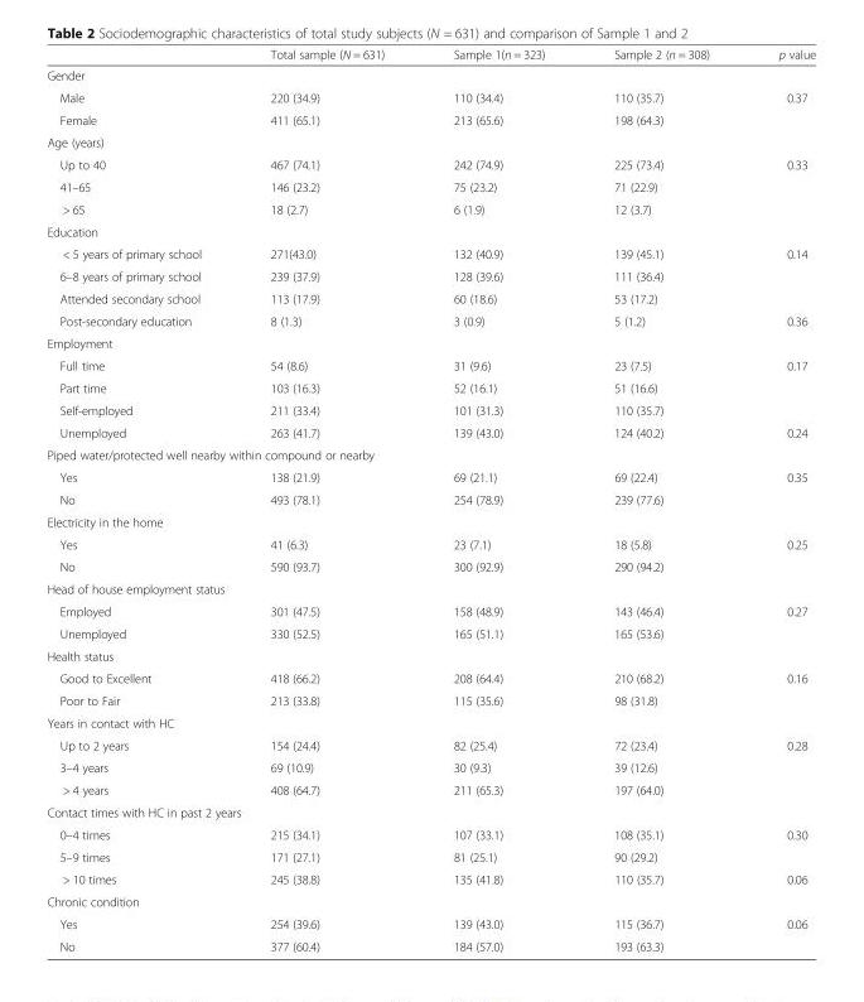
<table><thead><tr><td></td><td>Total sample (N = 631)</td><td>Sample 1(n = 323)</td><td>Sample 2 (n = 308)</td><td>p value</td></tr></thead><tbody><tr><td colspan="5">Gender</td></tr><tr><td>Male</td><td>220 (34.9)</td><td>110 (34.4)</td><td>110 (35.7)</td><td>0.37</td></tr><tr><td>Female</td><td>411 (65.1)</td><td>213 (65.6)</td><td>198 (64.3)</td><td></td></tr><tr><td colspan="5">Age (years)</td></tr><tr><td>Up to 40</td><td>467 (74.1)</td><td>242 (74.9)</td><td>225 (73.4)</td><td>0.33</td></tr><tr><td>41–65</td><td>146 (23.2)</td><td>75 (23.2)</td><td>71 (22.9)</td><td></td></tr><tr><td>&gt; 65</td><td>18 (2.7)</td><td>6 (1.9)</td><td>12 (3.7)</td><td></td></tr><tr><td colspan="5">Education</td></tr><tr><td>&lt; 5 years of primary school</td><td>271(43.0)</td><td>132 (40.9)</td><td>139 (45.1)</td><td>0.14</td></tr><tr><td>6–8 years of primary school</td><td>239 (37.9)</td><td>128 (39.6)</td><td>111 (36.4)</td><td></td></tr><tr><td>Attended secondary school</td><td>113 (17.9)</td><td>60 (18.6)</td><td>53 (17.2)</td><td></td></tr><tr><td>Post-secondary education</td><td>8 (1.3)</td><td>3 (0.9)</td><td>5 (1.2)</td><td>0.36</td></tr><tr><td colspan="5">Employment</td></tr><tr><td>Full time</td><td>54 (8.6)</td><td>31 (9.6)</td><td>23 (7.5)</td><td>0.17</td></tr><tr><td>Part time</td><td>103 (16.3)</td><td>52 (16.1)</td><td>51 (16.6)</td><td></td></tr><tr><td>Self-employed</td><td>211 (33.4)</td><td>101 (31.3)</td><td>110 (35.7)</td><td></td></tr><tr><td>Unemployed</td><td>263 (41.7)</td><td>139 (43.0)</td><td>124 (40.2)</td><td>0.24</td></tr><tr><td colspan="5">Piped water/protected well nearby within compound or nearby</td></tr><tr><td>Yes</td><td>138 (21.9)</td><td>69 (21.1)</td><td>69 (22.4)</td><td>0.35</td></tr><tr><td>No</td><td>493 (78.1)</td><td>254 (78.9)</td><td>239 (77.6)</td><td></td></tr><tr><td colspan="5">Electricity in the home</td></tr><tr><td>Yes</td><td>41 (6.3)</td><td>23 (7.1)</td><td>18 (5.8)</td><td>0.25</td></tr><tr><td>No</td><td>590 (93.7)</td><td>300 (92.9)</td><td>290 (94.2)</td><td></td></tr><tr><td colspan="5">Head of house employment status</td></tr><tr><td>Employed</td><td>301 (47.5)</td><td>158 (48.9)</td><td>143 (46.4)</td><td>0.27</td></tr><tr><td>Unemployed</td><td>330 (52.5)</td><td>165 (51.1)</td><td>165 (53.6)</td><td></td></tr><tr><td colspan="5">Health status</td></tr><tr><td>Good to Excellent</td><td>418 (66.2)</td><td>208 (64.4)</td><td>210 (68.2)</td><td>0.16</td></tr><tr><td>Poor to Fair</td><td>213 (33.8)</td><td>115 (35.6)</td><td>98 (31.8)</td><td></td></tr><tr><td colspan="5">Years in contact with HC</td></tr><tr><td>Up to 2 years</td><td>154 (24.4)</td><td>82 (25.4)</td><td>72 (23.4)</td><td>0.28</td></tr><tr><td>3–4 years</td><td>69 (10.9)</td><td>30 (9.3)</td><td>39 (12.6)</td><td></td></tr><tr><td>&gt; 4 years</td><td>408 (64.7)</td><td>211 (65.3)</td><td>197 (64.0)</td><td></td></tr><tr><td colspan="5">Contact times with HC in past 2 years</td></tr><tr><td>0–4 times</td><td>215 (34.1)</td><td>107 (33.1)</td><td>108 (35.1)</td><td>0.30</td></tr><tr><td>5–9 times</td><td>171 (27.1)</td><td>81 (25.1)</td><td>90 (29.2)</td><td></td></tr><tr><td>&gt; 10 times</td><td>245 (38.8)</td><td>135 (41.8)</td><td>110 (35.7)</td><td>0.06</td></tr><tr><td colspan="5">Chronic condition</td></tr><tr><td>Yes</td><td>254 (39.6)</td><td>139 (43.0)</td><td>115 (36.7)</td><td>0.06</td></tr><tr><td>No</td><td>377 (60.4)</td><td>184 (57.0)</td><td>193 (63.3)</td><td></td></tr></tbody></table>